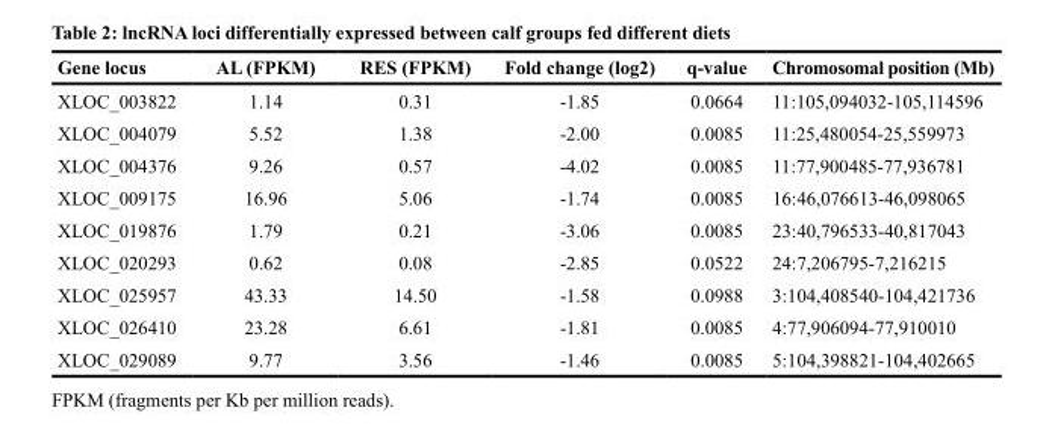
<table><thead><tr><td>Gene locus</td><td>AL (FPKM)</td><td>RES (FPKM)</td><td>Fold change (log2)</td><td>q-value</td><td>Chromosomal position (Mb)</td></tr></thead><tbody><tr><td>XLOC_003822</td><td>1.14</td><td>0.31</td><td>-1.85</td><td>0.0664</td><td>11:105,094032-105,114596</td></tr><tr><td>XLOC_004079</td><td>5.52</td><td>1.38</td><td>-2.00</td><td>0.0085</td><td>11:25,480054-25,559973</td></tr><tr><td>XLOC_004376</td><td>9.26</td><td>0.57</td><td>-4.02</td><td>0.0085</td><td>11:77,900485-77,936781</td></tr><tr><td>XLOC_009175</td><td>16.96</td><td>5.06</td><td>-1.74</td><td>0.0085</td><td>16:46,076613-46,098065</td></tr><tr><td>XLOC_019876</td><td>1.79</td><td>0.21</td><td>-3.06</td><td>0.0085</td><td>23:40,796533-40,817043</td></tr><tr><td>XLOC_020293</td><td>0.62</td><td>0.08</td><td>-2.85</td><td>0.0522</td><td>24:7,206795-7,216215</td></tr><tr><td>XLOC_025957</td><td>43.33</td><td>14.50</td><td>-1.58</td><td>0.0988</td><td>3:104,408540-104,421736</td></tr><tr><td>XLOC_026410</td><td>23.28</td><td>6.61</td><td>-1.81</td><td>0.0085</td><td>4:77,906094-77,910010</td></tr><tr><td>XLOC_029089</td><td>9.77</td><td>3.56</td><td>-1.46</td><td>0.0085</td><td>5:104,398821-104,402665</td></tr></tbody></table>